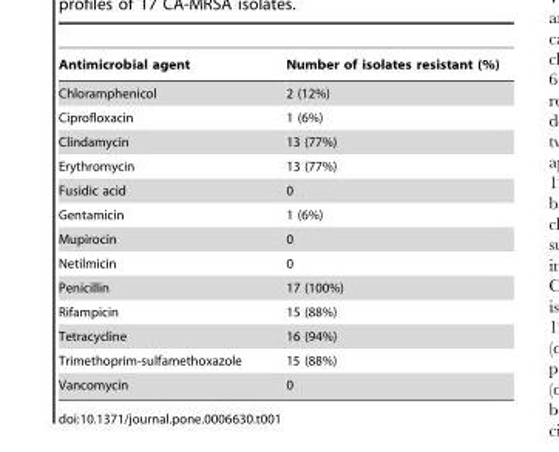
<table><thead><tr><td>Antimicrobial agent</td><td>Number of isolates resistant (%)</td></tr></thead><tbody><tr><td>Chloramphenicol</td><td>2 (12%)</td></tr><tr><td>Ciprofloxacin</td><td>1 (6%)</td></tr><tr><td>Clindamycin</td><td>13 (77%)</td></tr><tr><td>Erythromycin</td><td>13 (77%)</td></tr><tr><td>Fusidic acid</td><td>0</td></tr><tr><td>Gentamicin</td><td>1 (6%)</td></tr><tr><td>Mupirocin</td><td>0</td></tr><tr><td>Netilmicin</td><td>0</td></tr><tr><td>Penicillin</td><td>17 (100%)</td></tr><tr><td>Rifampicin</td><td>15 (88%)</td></tr><tr><td>Tetracycline</td><td>16 (94%)</td></tr><tr><td>Trimethoprim-sulfamethoxazole</td><td>15 (88%)</td></tr><tr><td>Vancomycin</td><td>0</td></tr></tbody></table>